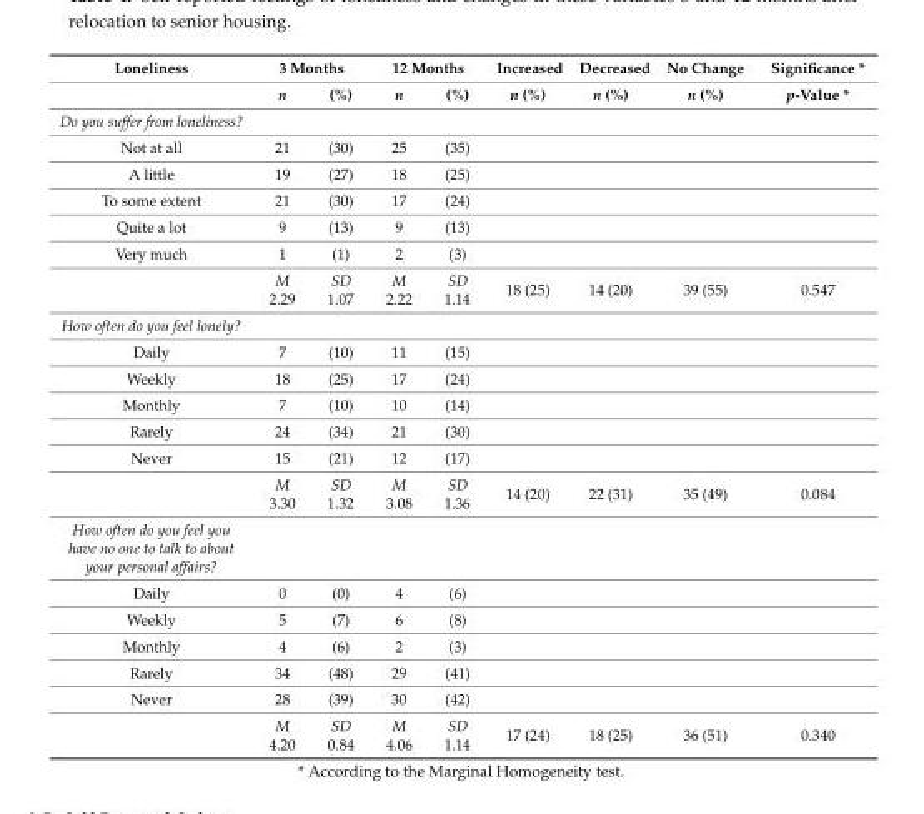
<table><thead><tr><td rowspan="2">Loneliness</td><td colspan="2">3 Months</td><td colspan="2">12 Months</td><td rowspan="2">Increased n (%)</td><td rowspan="2">Decreased n (%)</td><td rowspan="2">No Change n (%)</td><td rowspan="2">Significance * p-Value *</td></tr><tr><td>n</td><td>(%)</td><td>n</td><td>(%)</td></tr></thead><tbody><tr><td colspan="9">Do you suffer from loneliness?</td></tr><tr><td>Not at all</td><td>21</td><td>(30)</td><td>25</td><td>(35)</td><td></td><td></td><td></td><td></td></tr><tr><td>A little</td><td>19</td><td>(27)</td><td>18</td><td>(25)</td><td></td><td></td><td></td><td></td></tr><tr><td>To some extent</td><td>21</td><td>(30)</td><td>17</td><td>(24)</td><td></td><td></td><td></td><td></td></tr><tr><td>Quite a lot</td><td>9</td><td>(13)</td><td>9</td><td>(13)</td><td></td><td></td><td></td><td></td></tr><tr><td rowspan="2">Very much</td><td>1</td><td>(1)</td><td>2</td><td>(3)</td><td></td><td></td><td></td><td></td></tr><tr><td>M 2.29</td><td>SD 1.07</td><td>M 2.22</td><td>SD 1.14</td><td>18 (25)</td><td>14 (20)</td><td>39 (55)</td><td>0.547</td></tr><tr><td colspan="9">How often do you feel lonely?</td></tr><tr><td>Daily</td><td>7</td><td>(10)</td><td>11</td><td>(15)</td><td></td><td></td><td></td><td></td></tr><tr><td>Weekly</td><td>18</td><td>(25)</td><td>17</td><td>(24)</td><td></td><td></td><td></td><td></td></tr><tr><td>Monthly</td><td>7</td><td>(10)</td><td>10</td><td>(14)</td><td></td><td></td><td></td><td></td></tr><tr><td>Rarely</td><td>24</td><td>(34)</td><td>21</td><td>(30)</td><td></td><td></td><td></td><td></td></tr><tr><td rowspan="2">Never</td><td>15</td><td>(21)</td><td>12</td><td>(17)</td><td></td><td></td><td></td><td></td></tr><tr><td>M 3.30</td><td>SD 1.32</td><td>M 3.08</td><td>SD 1.36</td><td>14 (20)</td><td>22 (31)</td><td>35 (49)</td><td>0.084</td></tr><tr><td colspan="9">How often do you feel you have no one to talk to about your personal affairs?</td></tr><tr><td>Daily</td><td>0</td><td>(0)</td><td>4</td><td>(6)</td><td></td><td></td><td></td><td></td></tr><tr><td>Weekly</td><td>5</td><td>(7)</td><td>6</td><td>(8)</td><td></td><td></td><td></td><td></td></tr><tr><td>Monthly</td><td>4</td><td>(6)</td><td>2</td><td>(3)</td><td></td><td></td><td></td><td></td></tr><tr><td>Rarely</td><td>34</td><td>(48)</td><td>29</td><td>(41)</td><td></td><td></td><td></td><td></td></tr><tr><td rowspan="2">Never</td><td>28</td><td>(39)</td><td>30</td><td>(42)</td><td></td><td></td><td></td><td></td></tr><tr><td>M 4.20</td><td>SD 0.84</td><td>M 4.06</td><td>SD 1.14</td><td>17 (24)</td><td>18 (25)</td><td>36 (51)</td><td>0.340</td></tr></tbody></table>